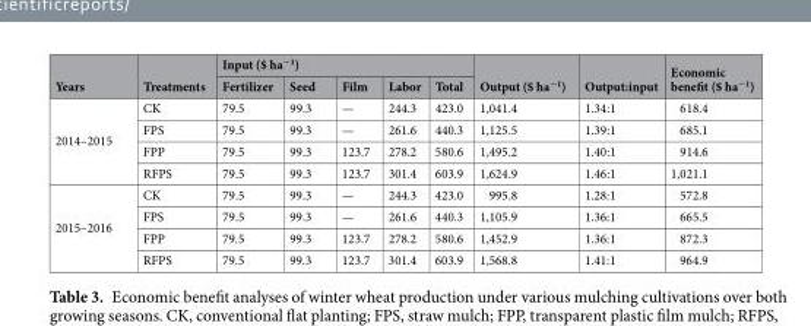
<table><thead><tr><td rowspan="2">Years</td><td rowspan="2">Treatments</td><td colspan="5">Input ($ ha<sup>−1</sup>)</td><td rowspan="2">Output ($ ha<sup>−1</sup>)</td><td rowspan="2">Output:input</td><td rowspan="2">Economic benefit ($ ha<sup>−1</sup>)</td></tr><tr><td>Fertilizer</td><td>Seed</td><td>Film</td><td>Labor</td><td>Total</td></tr></thead><tbody><tr><td rowspan="4">2014–2015</td><td>CK</td><td>79.5</td><td>99.3</td><td>—</td><td>244.3</td><td>423.0</td><td>1,041.4</td><td>1.34:1</td><td>618.4</td></tr><tr><td>FPS</td><td>79.5</td><td>99.3</td><td>—</td><td>261.6</td><td>440.3</td><td>1,125.5</td><td>1.39:1</td><td>685.1</td></tr><tr><td>FPP</td><td>79.5</td><td>99.3</td><td>123.7</td><td>278.2</td><td>580.6</td><td>1,495.2</td><td>1.40:1</td><td>914.6</td></tr><tr><td>RFPS</td><td>79.5</td><td>99.3</td><td>123.7</td><td>301.4</td><td>603.9</td><td>1,624.9</td><td>1.46:1</td><td>1,021.1</td></tr><tr><td rowspan="4">2015–2016</td><td>CK</td><td>79.5</td><td>99.3</td><td>—</td><td>244.3</td><td>423.0</td><td>995.8</td><td>1.28:1</td><td>572.8</td></tr><tr><td>FPS</td><td>79.5</td><td>99.3</td><td>—</td><td>261.6</td><td>440.3</td><td>1,105.9</td><td>1.36:1</td><td>665.5</td></tr><tr><td>FPP</td><td>79.5</td><td>99.3</td><td>123.7</td><td>278.2</td><td>580.6</td><td>1,452.9</td><td>1.36:1</td><td>872.3</td></tr><tr><td>RFPS</td><td>79.5</td><td>99.3</td><td>123.7</td><td>301.4</td><td>603.9</td><td>1,568.8</td><td>1.41:1</td><td>964.9</td></tr></tbody></table>